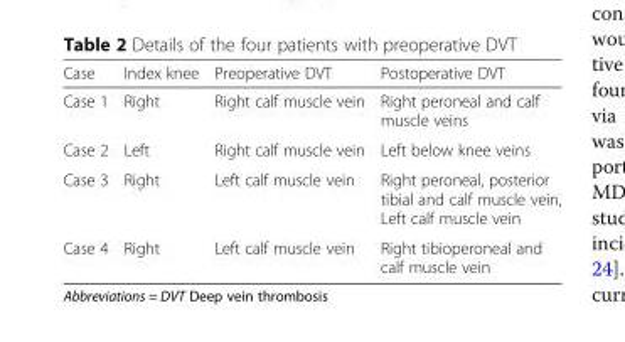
<table><thead><tr><td>Case</td><td>Index knee</td><td>Preoperative DVT</td><td>Postoperative DVT</td></tr></thead><tbody><tr><td>Case 1</td><td>Right</td><td>Right calf muscle vein</td><td>Right peroneal and calf muscle veins</td></tr><tr><td>Case 2</td><td>Left</td><td>Right calf muscle vein</td><td>Left below knee veins</td></tr><tr><td>Case 3</td><td>Right</td><td>Left calf muscle vein</td><td>Right peroneal, posterior tibial and calf muscle vein, Left calf muscle vein</td></tr><tr><td>Case 4</td><td>Right</td><td>Left calf muscle vein</td><td>Right tibioperoneal and calf muscle vein</td></tr></tbody></table>